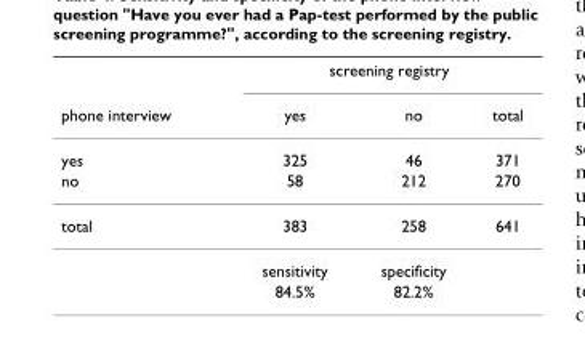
<table><thead><tr><td rowspan="2">phone interview</td><td colspan="3">screening registry</td></tr><tr><td>yes</td><td>no</td><td>total</td></tr></thead><tbody><tr><td>yes</td><td>325</td><td>46</td><td>371</td></tr><tr><td>no</td><td>58</td><td>212</td><td>270</td></tr><tr><td rowspan="3">total</td><td>383</td><td>258</td><td>641</td></tr><tr><td>sensitivity</td><td>specificity</td><td></td></tr><tr><td>84.5%</td><td>82.2%</td><td></td></tr></tbody></table>